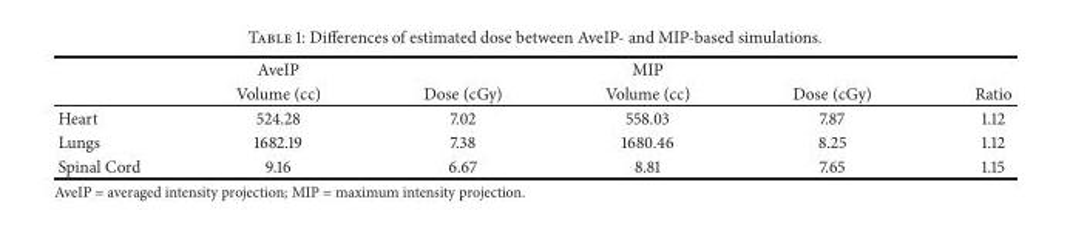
<table><thead><tr><td rowspan="2"></td><td rowspan="2">AveIP Volume (cc)</td><td rowspan="2">Dose (cGy)</td><td rowspan="2">MIP Volume (cc)</td><td rowspan="2">Dose (cGy)</td><td rowspan="2">Ratio</td></tr><tr></tr></thead><tbody><tr><td>Heart</td><td>524.28</td><td>7.02</td><td>558.03</td><td>7.87</td><td>1.12</td></tr><tr><td>Lungs</td><td>1682.19</td><td>7.38</td><td>1680.46</td><td>8.25</td><td>1.12</td></tr><tr><td>Spinal Cord</td><td>9.16</td><td>6.67</td><td>8.81</td><td>7.65</td><td>1.15</td></tr></tbody></table>